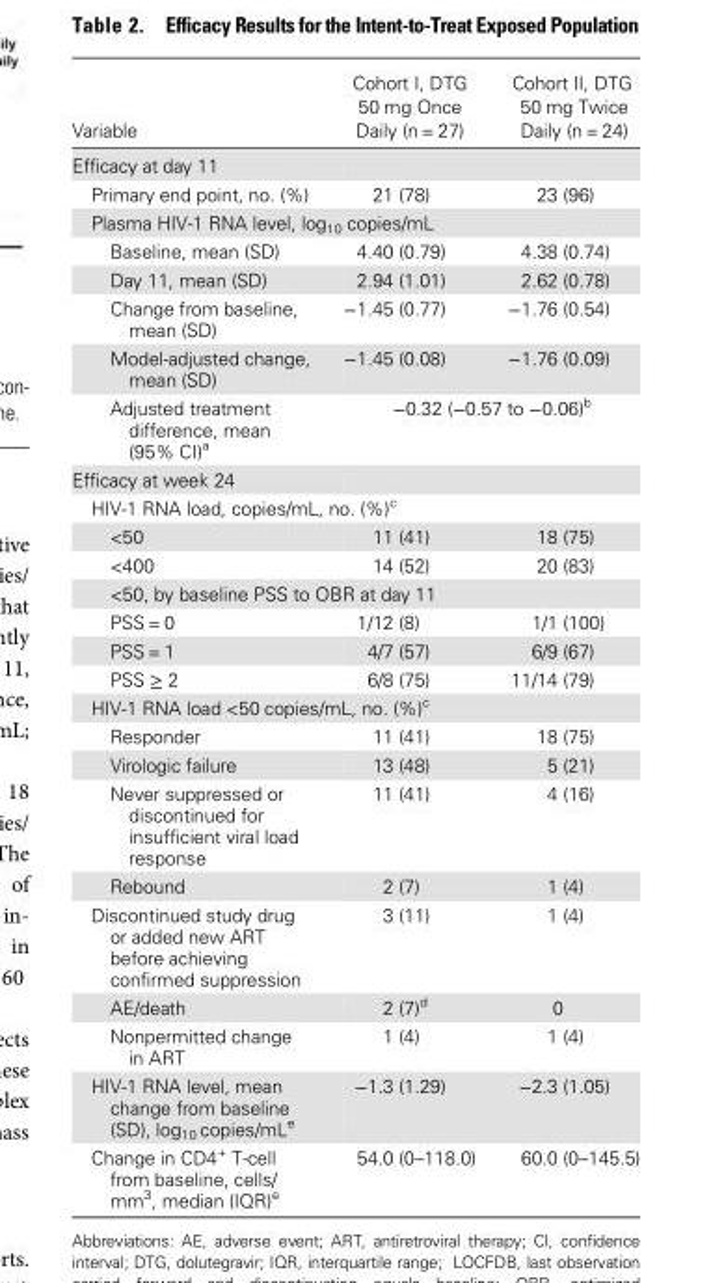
<table><thead><tr><td>Variable</td><td>Cohort I, DTG 50 mg Once Daily (n = 27)</td><td>Cohort II, DTG 50 mg Twice Daily (n = 24)</td></tr></thead><tbody><tr><td colspan="3">Efficacy at day 11</td></tr><tr><td>Primary end point, no. (%)</td><td>21 (78)</td><td>23 (96)</td></tr><tr><td colspan="3">Plasma HIV-1 RNA level, log<sub>10</sub> copies/mL</td></tr><tr><td>Baseline, mean (SD)</td><td>4.40 (0.79)</td><td>4.38 (0.74)</td></tr><tr><td>Day 11, mean (SD)</td><td>2.94 (1.01)</td><td>2.62 (0.78)</td></tr><tr><td>Change from baseline, mean (SD)</td><td>−1.45 (0.77)</td><td>−1.76 (0.54)</td></tr><tr><td>Model-adjusted change, mean (SD)</td><td>−1.45 (0.08)</td><td>−1.76 (0.09)</td></tr><tr><td>Adjusted treatment difference, mean (95% CI)<sup>a</sup></td><td colspan="2">−0.32 (−0.57 to −0.06)<sup>b</sup></td></tr><tr><td colspan="3">Efficacy at week 24</td></tr><tr><td colspan="3">HIV-1 RNA load, copies/mL, no. (%)<sup>c</sup></td></tr><tr><td>&lt;50</td><td>11 (41)</td><td>18 (75)</td></tr><tr><td>&lt;400</td><td>14 (52)</td><td>20 (83)</td></tr><tr><td colspan="3">&lt;50, by baseline PSS to OBR at day 11</td></tr><tr><td>PSS = 0</td><td>1/12 (8)</td><td>1/1 (100)</td></tr><tr><td>PSS = 1</td><td>4/7 (57)</td><td>6/9 (67)</td></tr><tr><td>PSS ≥ 2</td><td>6/8 (75)</td><td>11/14 (79)</td></tr><tr><td colspan="3">HIV-1 RNA load &lt;50 copies/mL, no. (%)<sup>c</sup></td></tr><tr><td>Responder</td><td>11 (41)</td><td>18 (75)</td></tr><tr><td>Virologic failure</td><td>13 (48)</td><td>5 (21)</td></tr><tr><td>Never suppressed or discontinued for insufficient viral load response</td><td>11 (41)</td><td>4 (16)</td></tr><tr><td>Rebound</td><td>2 (7)</td><td>1 (4)</td></tr><tr><td>Discontinued study drug or added new ART before achieving confirmed suppression</td><td>3 (11)</td><td>1 (4)</td></tr><tr><td>AE/death</td><td>2 (7)<sup>d</sup></td><td>0</td></tr><tr><td>Nonpermitted change in ART</td><td>1 (4)</td><td>1 (4)</td></tr><tr><td>HIV-1 RNA level, mean change from baseline (SD), log<sub>10</sub> copies/mL<sup>e</sup></td><td>−1.3 (1.29)</td><td>−2.3 (1.05)</td></tr><tr><td>Change in CD4<sup>+</sup> T-cell from baseline, cells/ mm<sup>3</sup>, median (IQR)<sup>e</sup></td><td>54.0 (0–118.0)</td><td>60.0 (0–145.5)</td></tr></tbody></table>